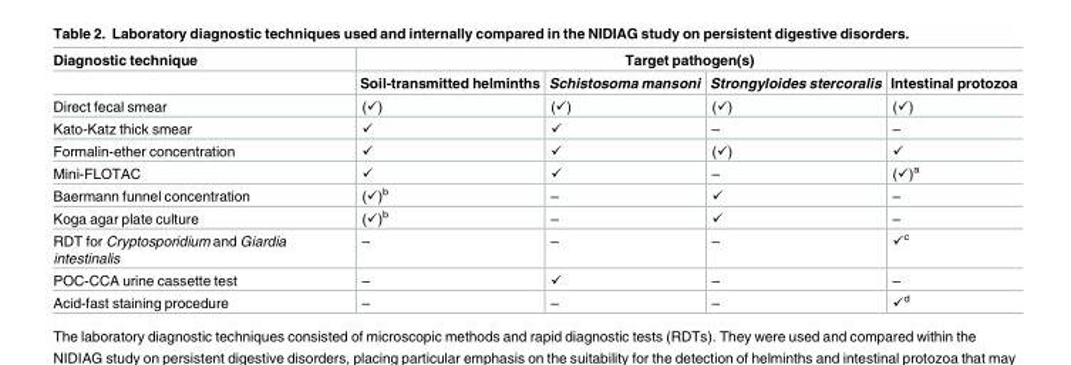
<table><thead><tr><td rowspan="2">Diagnostic technique</td><td colspan="4">Target pathogen(s)</td></tr><tr><td>Soil-transmitted helminths</td><td>Schistosoma mansoni</td><td>Strongyloides stercoralis</td><td>Intestinal protozoa</td></tr></thead><tbody><tr><td>Direct fecal smear</td><td>(✓)</td><td>(✓)</td><td>(✓)</td><td>(✓)</td></tr><tr><td>Kato-Katz thick smear</td><td>✓</td><td>✓</td><td>–</td><td>–</td></tr><tr><td>Formalin-ether concentration</td><td>✓</td><td>✓</td><td>(✓)</td><td>✓</td></tr><tr><td>Mini-FLOTAC</td><td>✓</td><td>✓</td><td>–</td><td>(✓)<sup>a</sup></td></tr><tr><td>Baermann funnel concentration</td><td>(✓)<sup>b</sup></td><td>–</td><td>✓</td><td>–</td></tr><tr><td>Koga agar plate culture</td><td>(✓)<sup>b</sup></td><td>–</td><td>✓</td><td>–</td></tr><tr><td>RDT for Cryptosporidium and Giardia intestinalis</td><td>–</td><td>–</td><td>–</td><td>✓<sup>c</sup></td></tr><tr><td>POC-CCA urine cassette test</td><td>–</td><td>✓</td><td>–</td><td>–</td></tr><tr><td>Acid-fast staining procedure</td><td>–</td><td>–</td><td>–</td><td>✓<sup>d</sup></td></tr></tbody></table>